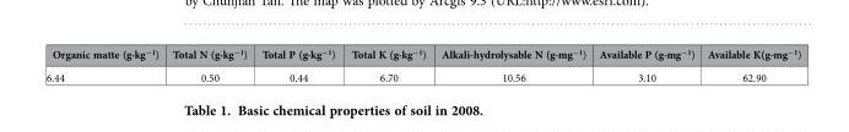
<table><thead><tr><td>Organic matte (g·kg<sup>−1</sup>)</td><td>Total N (g·kg<sup>−1</sup>)</td><td>Total P (g·kg<sup>−1</sup>)</td><td>Total K (g·kg<sup>−1</sup>)</td><td>Alkali-hydrolysable N (g·mg<sup>−1</sup>)</td><td>Available P (g·mg<sup>−1</sup>)</td><td>Available K(g·mg<sup>−1</sup>)</td></tr></thead><tbody><tr><td>6.44</td><td>0.50</td><td>0.44</td><td>6.70</td><td>10.56</td><td>3.10</td><td>62.90</td></tr></tbody></table>